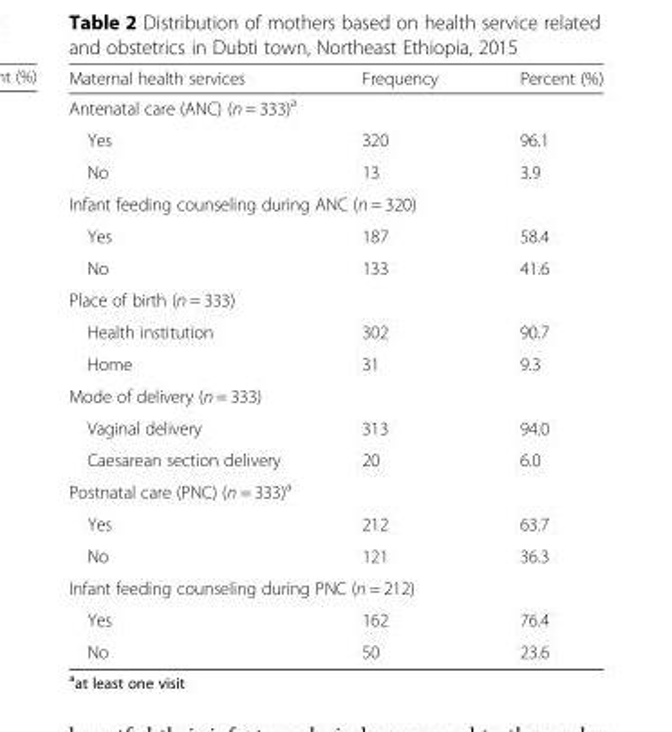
<table><thead><tr><td>Maternal health services</td><td>Frequency</td><td>Percent (%)</td></tr></thead><tbody><tr><td colspan="3">Antenatal care (ANC) (n = 333)<sup>a</sup></td></tr><tr><td>Yes</td><td>320</td><td>96.1</td></tr><tr><td>No</td><td>13</td><td>3.9</td></tr><tr><td colspan="3">Infant feeding counseling during ANC (n = 320)</td></tr><tr><td>Yes</td><td>187</td><td>58.4</td></tr><tr><td>No</td><td>133</td><td>41.6</td></tr><tr><td colspan="3">Place of birth (n = 333)</td></tr><tr><td>Health institution</td><td>302</td><td>90.7</td></tr><tr><td>Home</td><td>31</td><td>9.3</td></tr><tr><td colspan="3">Mode of delivery (n = 333)</td></tr><tr><td>Vaginal delivery</td><td>313</td><td>94.0</td></tr><tr><td>Caesarean section delivery</td><td>20</td><td>6.0</td></tr><tr><td colspan="3">Postnatal care (PNC) (n = 333)<sup>a</sup></td></tr><tr><td>Yes</td><td>212</td><td>63.7</td></tr><tr><td>No</td><td>121</td><td>36.3</td></tr><tr><td colspan="3">Infant feeding counseling during PNC (n = 212)</td></tr><tr><td>Yes</td><td>162</td><td>76.4</td></tr><tr><td>No</td><td>50</td><td>23.6</td></tr></tbody></table>